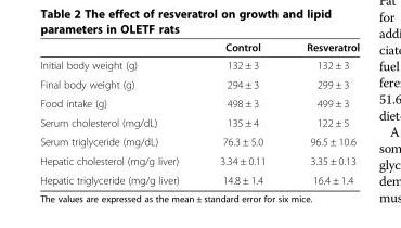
<table><thead><tr><td></td><td>Control</td><td>Resveratrol</td></tr></thead><tbody><tr><td>Initial body weight (g)</td><td>132 ± 3</td><td>132 ± 3</td></tr><tr><td>Final body weight (g)</td><td>294 ± 3</td><td>299 ± 3</td></tr><tr><td>Food intake (g)</td><td>498 ± 3</td><td>499 ± 3</td></tr><tr><td>Serum cholesterol (mg/dL)</td><td>135 ± 4</td><td>122 ± 5</td></tr><tr><td>Serum triglyceride (mg/dL)</td><td>76.3 ± 5.0</td><td>96.5 ± 10.6</td></tr><tr><td>Hepatic cholesterol (mg/g liver)</td><td>3.34 ± 0.11</td><td>3.35 ± 0.13</td></tr><tr><td>Hepatic triglyceride (mg/g liver)</td><td>14.8 ± 1.4</td><td>16.4 ± 1.4</td></tr></tbody></table>